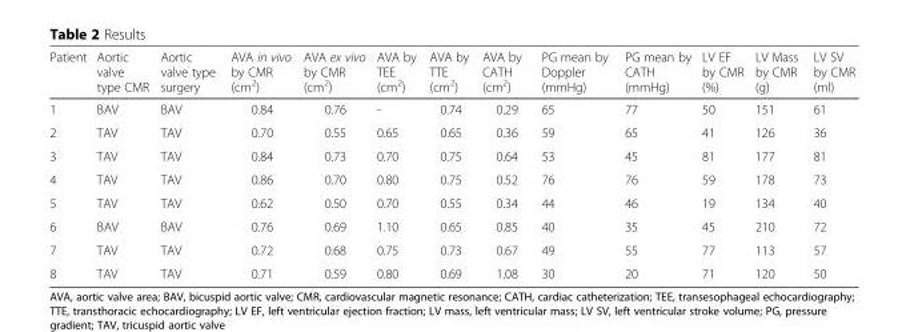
<table><thead><tr><td>Patient</td><td>Aortic valve type CMR</td><td>Aortic valve type surgery</td><td>AVA in vivo by CMR (cm<sup>2</sup>)</td><td>AVA ex vivo by CMR (cm<sup>2</sup>)</td><td>AVA by TEE (cm<sup>2</sup>)</td><td>AVA by TTE (cm<sup>2</sup>)</td><td>AVA by CATH (cm<sup>2</sup>)</td><td>PG mean by Doppler (mmHg)</td><td>PG mean by CATH (mmHg)</td><td>LV EF by CMR (%)</td><td>LV Mass by CMR (g)</td><td>LV SV by CMR (ml)</td></tr></thead><tbody><tr><td>1</td><td>BAV</td><td>BAV</td><td>0.84</td><td>0.76</td><td>-</td><td>0.74</td><td>0.29</td><td>65</td><td>77</td><td>50</td><td>151</td><td>61</td></tr><tr><td>2</td><td>TAV</td><td>TAV</td><td>0.70</td><td>0.55</td><td>0.65</td><td>0.65</td><td>0.36</td><td>59</td><td>65</td><td>41</td><td>126</td><td>36</td></tr><tr><td>3</td><td>TAV</td><td>TAV</td><td>0.84</td><td>0.73</td><td>0.70</td><td>0.75</td><td>0.64</td><td>53</td><td>45</td><td>81</td><td>177</td><td>81</td></tr><tr><td>4</td><td>TAV</td><td>TAV</td><td>0.86</td><td>0.70</td><td>0.80</td><td>0.75</td><td>0.52</td><td>76</td><td>76</td><td>59</td><td>178</td><td>73</td></tr><tr><td>5</td><td>TAV</td><td>TAV</td><td>0.62</td><td>0.50</td><td>0.70</td><td>0.55</td><td>0.34</td><td>44</td><td>46</td><td>19</td><td>134</td><td>40</td></tr><tr><td>6</td><td>BAV</td><td>BAV</td><td>0.76</td><td>0.69</td><td>1.10</td><td>0.65</td><td>0.85</td><td>40</td><td>35</td><td>45</td><td>210</td><td>72</td></tr><tr><td>7</td><td>TAV</td><td>TAV</td><td>0.72</td><td>0.68</td><td>0.75</td><td>0.73</td><td>0.67</td><td>49</td><td>55</td><td>77</td><td>113</td><td>57</td></tr><tr><td>8</td><td>TAV</td><td>TAV</td><td>0.71</td><td>0.59</td><td>0.80</td><td>0.69</td><td>1.08</td><td>30</td><td>20</td><td>71</td><td>120</td><td>50</td></tr></tbody></table>